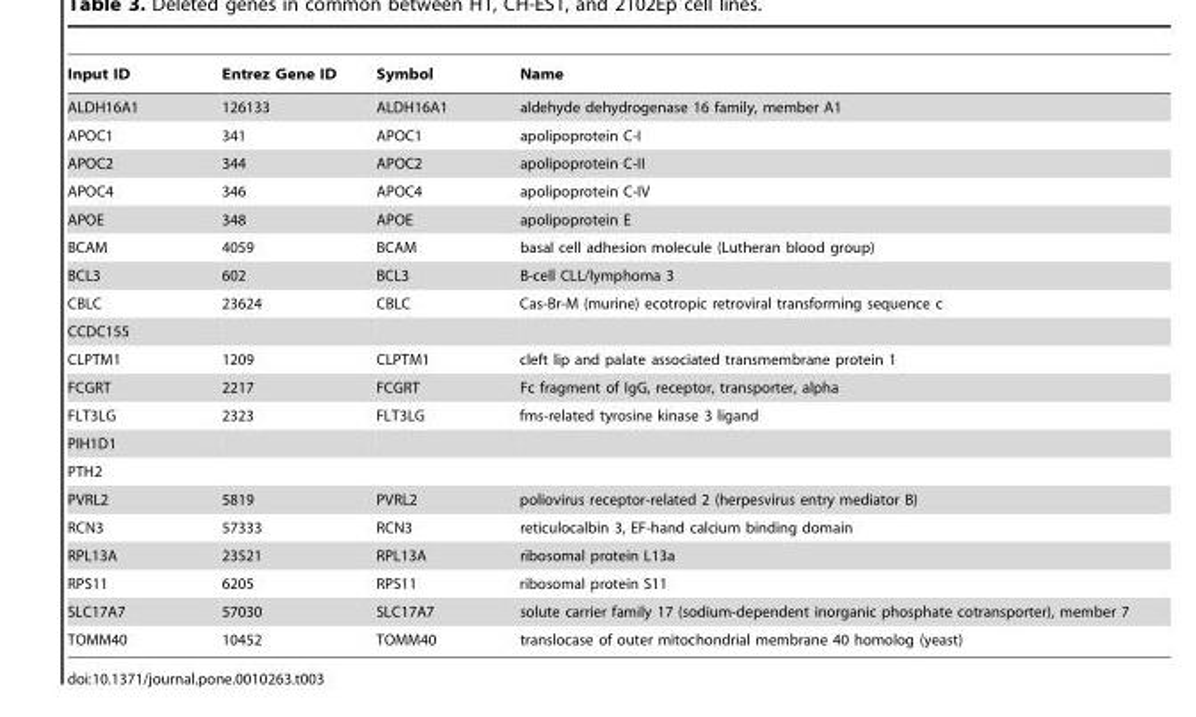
<table><thead><tr><td>Input ID</td><td>Entrez Gene ID</td><td>Symbol</td><td>Name</td></tr></thead><tbody><tr><td>ALDH16A1</td><td>126133</td><td>ALDH16A1</td><td>aldehyde dehydrogenase 16 family, member A1</td></tr><tr><td>APOC1</td><td>341</td><td>APOC1</td><td>apolipoprotein C-I</td></tr><tr><td>APOC2</td><td>344</td><td>APOC2</td><td>apolipoprotein C-II</td></tr><tr><td>APOC4</td><td>346</td><td>APOC4</td><td>apolipoprotein C-IV</td></tr><tr><td>APOE</td><td>348</td><td>APOE</td><td>apolipoprotein E</td></tr><tr><td>BCAM</td><td>4059</td><td>BCAM</td><td>basal cell adhesion molecule (Lutheran blood group)</td></tr><tr><td>BCL3</td><td>602</td><td>BCL3</td><td>B-cell CLL/lymphoma 3</td></tr><tr><td>CBLC</td><td>23624</td><td>CBLC</td><td>Cas-Br-M (murine) ecotropic retroviral transforming sequence c</td></tr><tr><td colspan="4">CCDC155</td></tr><tr><td>CLPTM1</td><td>1209</td><td>CLPTM1</td><td>cleft lip and palate associated transmembrane protein 1</td></tr><tr><td>FCGRT</td><td>2217</td><td>FCGRT</td><td>Fc fragment of IgG, receptor, transporter, alpha</td></tr><tr><td>FLT3LG</td><td>2323</td><td>FLT3LG</td><td>fms-related tyrosine kinase 3 ligand</td></tr><tr><td colspan="4">PIH1D1</td></tr><tr><td colspan="4">PTH2</td></tr><tr><td>PVRL2</td><td>5819</td><td>PVRL2</td><td>poliovirus receptor-related 2 (herpesvirus entry mediator B)</td></tr><tr><td>RCN3</td><td>57333</td><td>RCN3</td><td>reticulocalbin 3, EF-hand calcium binding domain</td></tr><tr><td>RPL13A</td><td>23521</td><td>RPL13A</td><td>ribosomal protein L13a</td></tr><tr><td>RPS11</td><td>6205</td><td>RPS11</td><td>ribosomal protein S11</td></tr><tr><td>SLC17A7</td><td>57030</td><td>SLC17A7</td><td>solute carrier family 17 (sodium-dependent inorganic phosphate cotransporter), member 7</td></tr><tr><td>TOMM40</td><td>10452</td><td>TOMM40</td><td>translocase of outer mitochondrial membrane 40 homolog (yeast)</td></tr></tbody></table>